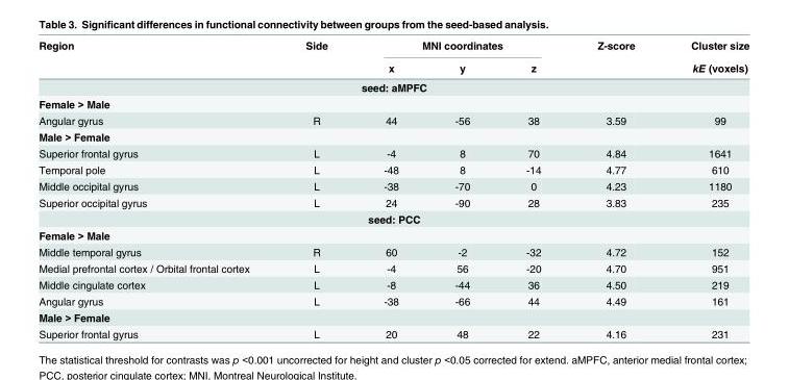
<table><thead><tr><td rowspan="2">Region</td><td rowspan="2">Side</td><td colspan="3">MNI coordinates</td><td rowspan="2">Z-score</td><td rowspan="2">Cluster size kE (voxels)</td></tr><tr><td>x</td><td>y</td><td>z</td></tr></thead><tbody><tr><td colspan="7">seed: aMPFC</td></tr><tr><td colspan="7">Female &gt; Male</td></tr><tr><td>Angular gyrus</td><td>R</td><td>44</td><td>-56</td><td>38</td><td>3.59</td><td>99</td></tr><tr><td colspan="7">Male &gt; Female</td></tr><tr><td>Superior frontal gyrus</td><td>L</td><td>-4</td><td>8</td><td>70</td><td>4.84</td><td>1641</td></tr><tr><td>Temporal pole</td><td>L</td><td>-48</td><td>8</td><td>-14</td><td>4.77</td><td>610</td></tr><tr><td>Middle occipital gyrus</td><td>L</td><td>-38</td><td>-70</td><td>0</td><td>4.23</td><td>1180</td></tr><tr><td>Superior occipital gyrus</td><td>L</td><td>24</td><td>-90</td><td>28</td><td>3.83</td><td>235</td></tr><tr><td colspan="7">seed: PCC</td></tr><tr><td colspan="7">Female &gt; Male</td></tr><tr><td>Middle temporal gyrus</td><td>R</td><td>60</td><td>-2</td><td>-32</td><td>4.72</td><td>152</td></tr><tr><td>Medial prefrontal cortex / Orbital frontal cortex</td><td>L</td><td>-4</td><td>56</td><td>-20</td><td>4.70</td><td>951</td></tr><tr><td>Middle cingulate cortex</td><td>L</td><td>-8</td><td>-44</td><td>36</td><td>4.50</td><td>219</td></tr><tr><td>Angular gyrus</td><td>L</td><td>-38</td><td>-66</td><td>44</td><td>4.49</td><td>161</td></tr><tr><td colspan="7">Male &gt; Female</td></tr><tr><td>Superior frontal gyrus</td><td>L</td><td>20</td><td>48</td><td>22</td><td>4.16</td><td>231</td></tr></tbody></table>